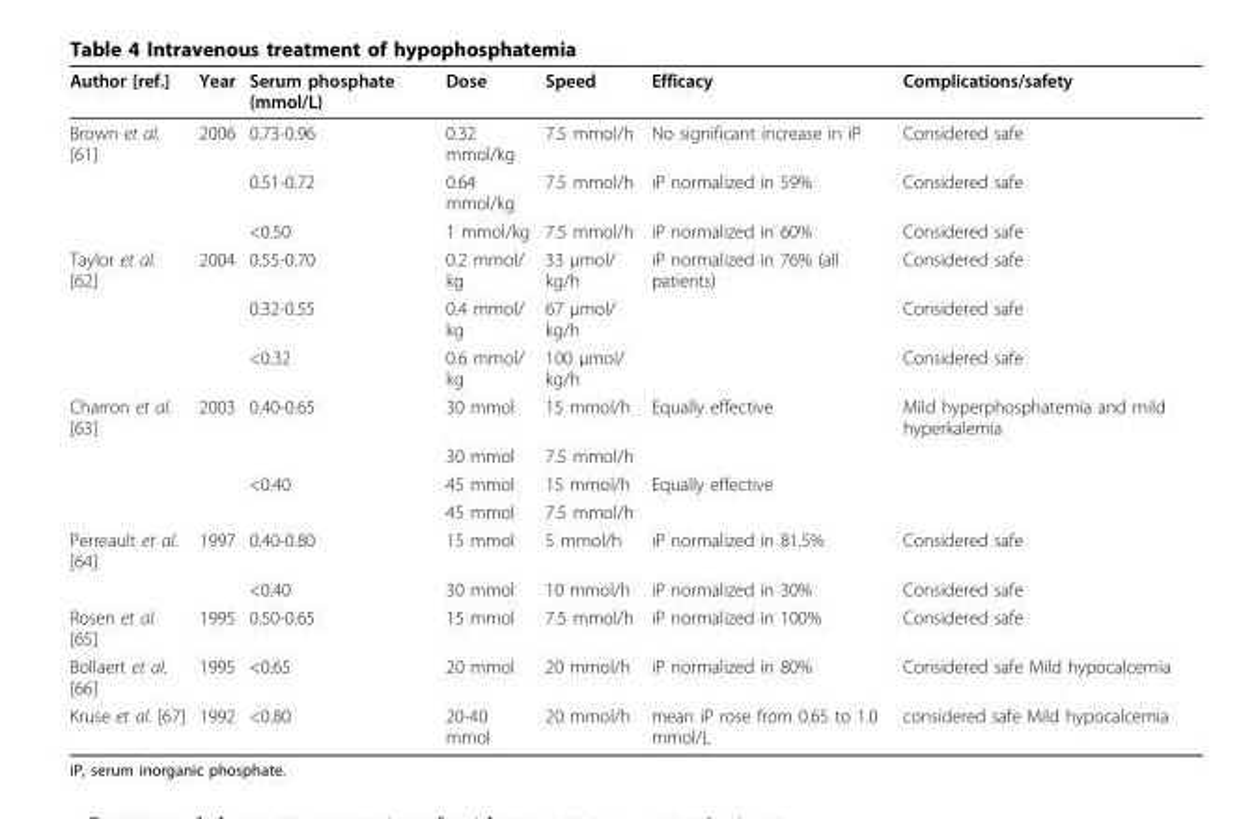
<table><thead><tr><td>Author [ref.]</td><td>Year</td><td>Serum phosphate (mmol/L)</td><td>Dose</td><td>Speed</td><td>Efficacy</td><td>Complications/safety</td></tr></thead><tbody><tr><td rowspan="3">Brown et al. [61]</td><td>2006</td><td>0.73-0.96</td><td>0.32 mmol/kg</td><td>7.5 mmol/h</td><td>No significant increase in iP</td><td>Considered safe</td></tr><tr><td></td><td>0.51-0.72</td><td>0.64 mmol/kg</td><td>7.5 mmol/h</td><td>iP normalized in 59%</td><td>Considered safe</td></tr><tr><td></td><td>&lt;0.50</td><td>1 mmol/kg</td><td>7.5 mmol/h</td><td>iP normalized in 60%</td><td>Considered safe</td></tr><tr><td rowspan="3">Taylor et al. [62]</td><td>2004</td><td>0.55-0.70</td><td>0.2 mmol/ kg</td><td>33 μmol/ kg/h</td><td>iP normalized in 76% (all patients)</td><td>Considered safe</td></tr><tr><td></td><td>0.32-0.55</td><td>0.4 mmol/ kg</td><td>67 μmol/ kg/h</td><td></td><td>Considered safe</td></tr><tr><td></td><td>&lt;0.32</td><td>0.6 mmol/ kg</td><td>100 μmol/ kg/h</td><td></td><td>Considered safe</td></tr><tr><td rowspan="4">Charron et al. [63]</td><td>2003</td><td>0.40-0.65</td><td>30 mmol</td><td>15 mmol/h</td><td>Equally effective</td><td>Mild hyperphosphatemia and mild hyperkalemia</td></tr><tr><td></td><td></td><td>30 mmol</td><td>7.5 mmol/h</td><td></td><td></td></tr><tr><td></td><td>&lt;0.40</td><td>45 mmol</td><td>15 mmol/h</td><td>Equally effective</td><td></td></tr><tr><td></td><td></td><td>45 mmol</td><td>7.5 mmol/h</td><td></td><td></td></tr><tr><td rowspan="2">Perreault et al. [64]</td><td>1997</td><td>0.40-0.80</td><td>15 mmol</td><td>5 mmol/h</td><td>iP normalized in 81.5%</td><td>Considered safe</td></tr><tr><td></td><td>&lt;0.40</td><td>30 mmol</td><td>10 mmol/h</td><td>iP normalized in 30%</td><td>Considered safe</td></tr><tr><td>Rosen et al. [65]</td><td>1995</td><td>0.50-0.65</td><td>15 mmol</td><td>7.5 mmol/h</td><td>iP normalized in 100%</td><td>Considered safe</td></tr><tr><td>Bollaert et al. [66]</td><td>1995</td><td>&lt;0.65</td><td>20 mmol</td><td>20 mmol/h</td><td>iP normalized in 80%</td><td>Considered safe Mild hypocalcemia</td></tr><tr><td>Kruse et al. [67]</td><td>1992</td><td>&lt;0.80</td><td>20-40 mmol</td><td>20 mmol/h</td><td>mean iP rose from 0.65 to 1.0 mmol/L</td><td>considered safe Mild hypocalcemia</td></tr></tbody></table>